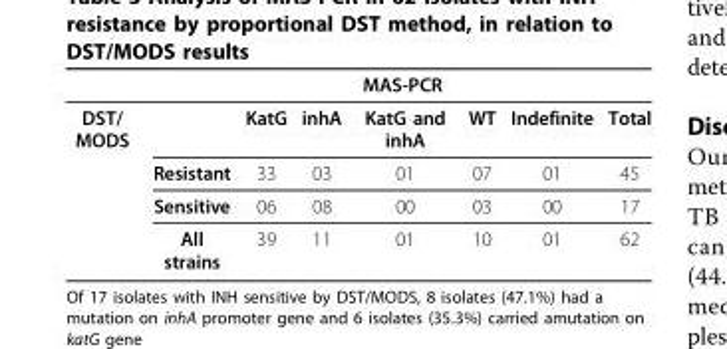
<table><thead><tr><td rowspan="2">DST/ MODS</td><td colspan="7">MAS-PCR</td></tr><tr><td></td><td>KatG</td><td>inhA</td><td>KatG and inhA</td><td>WT</td><td>Indefinite</td><td>Total</td></tr></thead><tbody><tr><td></td><td>Resistant</td><td>33</td><td>03</td><td>01</td><td>07</td><td>01</td><td>45</td></tr><tr><td></td><td>Sensitive</td><td>06</td><td>08</td><td>00</td><td>03</td><td>00</td><td>17</td></tr><tr><td></td><td>All strains</td><td>39</td><td>11</td><td>01</td><td>10</td><td>01</td><td>62</td></tr></tbody></table>